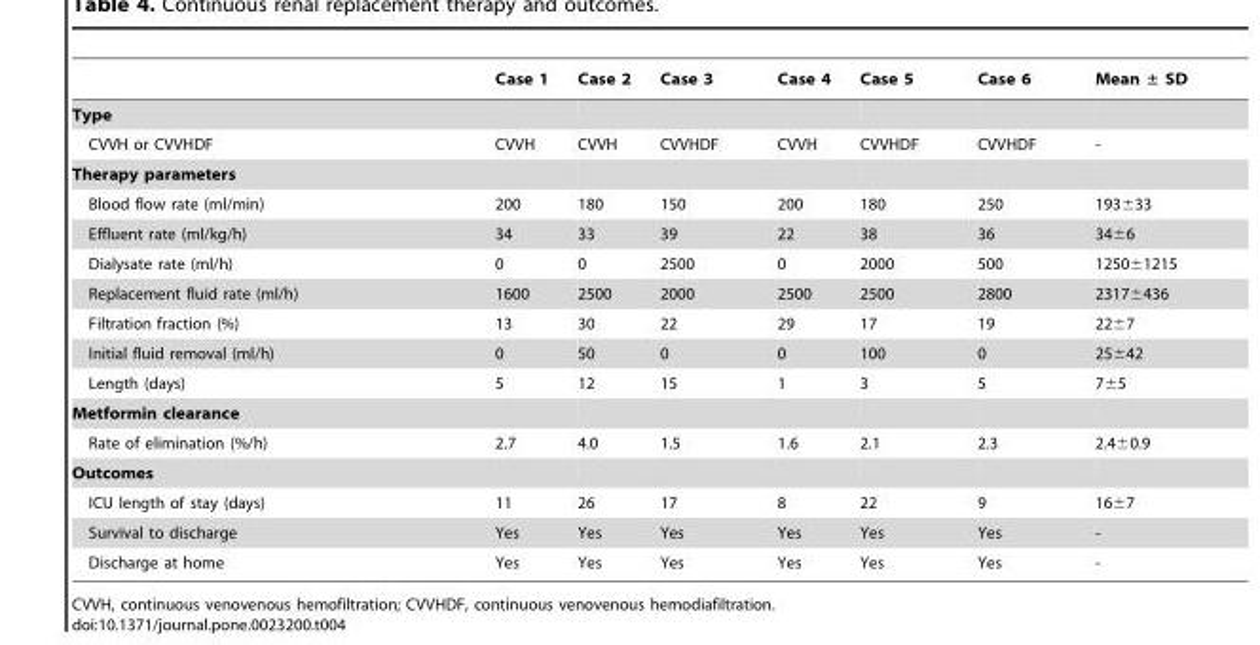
<table><thead><tr><td></td><td>Case 1</td><td>Case 2</td><td>Case 3</td><td>Case 4</td><td>Case 5</td><td>Case 6</td><td>Mean ± SD</td></tr></thead><tbody><tr><td colspan="8">Type</td></tr><tr><td>CVVH or CVVHDF</td><td>CVVH</td><td>CVVH</td><td>CVVHDF</td><td>CVVH</td><td>CVVHDF</td><td>CVVHDF</td><td>-</td></tr><tr><td colspan="8">Therapy parameters</td></tr><tr><td>Blood flow rate (ml/min)</td><td>200</td><td>180</td><td>150</td><td>200</td><td>180</td><td>250</td><td>193±33</td></tr><tr><td>Effluent rate (ml/kg/h)</td><td>34</td><td>33</td><td>39</td><td>22</td><td>38</td><td>36</td><td>34±6</td></tr><tr><td>Dialysate rate (ml/h)</td><td>0</td><td>0</td><td>2500</td><td>0</td><td>2000</td><td>500</td><td>1250±1215</td></tr><tr><td>Replacement fluid rate (ml/h)</td><td>1600</td><td>2500</td><td>2000</td><td>2500</td><td>2500</td><td>2800</td><td>2317±436</td></tr><tr><td>Filtration fraction (%)</td><td>13</td><td>30</td><td>22</td><td>29</td><td>17</td><td>19</td><td>22±7</td></tr><tr><td>Initial fluid removal (ml/h)</td><td>0</td><td>50</td><td>0</td><td>0</td><td>100</td><td>0</td><td>25±42</td></tr><tr><td>Length (days)</td><td>5</td><td>12</td><td>15</td><td>1</td><td>3</td><td>5</td><td>7±5</td></tr><tr><td colspan="8">Metformin clearance</td></tr><tr><td>Rate of elimination (%/h)</td><td>2.7</td><td>4.0</td><td>1.5</td><td>1.6</td><td>2.1</td><td>2.3</td><td>2.4±0.9</td></tr><tr><td colspan="8">Outcomes</td></tr><tr><td>ICU length of stay (days)</td><td>11</td><td>26</td><td>17</td><td>8</td><td>22</td><td>9</td><td>16±7</td></tr><tr><td>Survival to discharge</td><td>Yes</td><td>Yes</td><td>Yes</td><td>Yes</td><td>Yes</td><td>Yes</td><td>-</td></tr><tr><td>Discharge at home</td><td>Yes</td><td>Yes</td><td>Yes</td><td>Yes</td><td>Yes</td><td>Yes</td><td>-</td></tr></tbody></table>